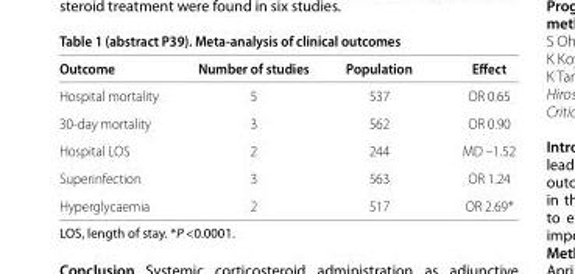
<table><thead><tr><td>Outcome</td><td>Number of studies</td><td>Population</td><td>Eff ect</td></tr></thead><tbody><tr><td>Hospital mortality</td><td>5</td><td>537</td><td>OR 0.65</td></tr><tr><td>30-day mortality</td><td>3</td><td>562</td><td>OR 0.90</td></tr><tr><td>Hospital LOS</td><td>2</td><td>244</td><td>MD –1.52</td></tr><tr><td>Superinfection</td><td>3</td><td>563</td><td>OR 1.24</td></tr><tr><td>Hyperglycaemia</td><td>2</td><td>517</td><td>OR 2.69*</td></tr></tbody></table>